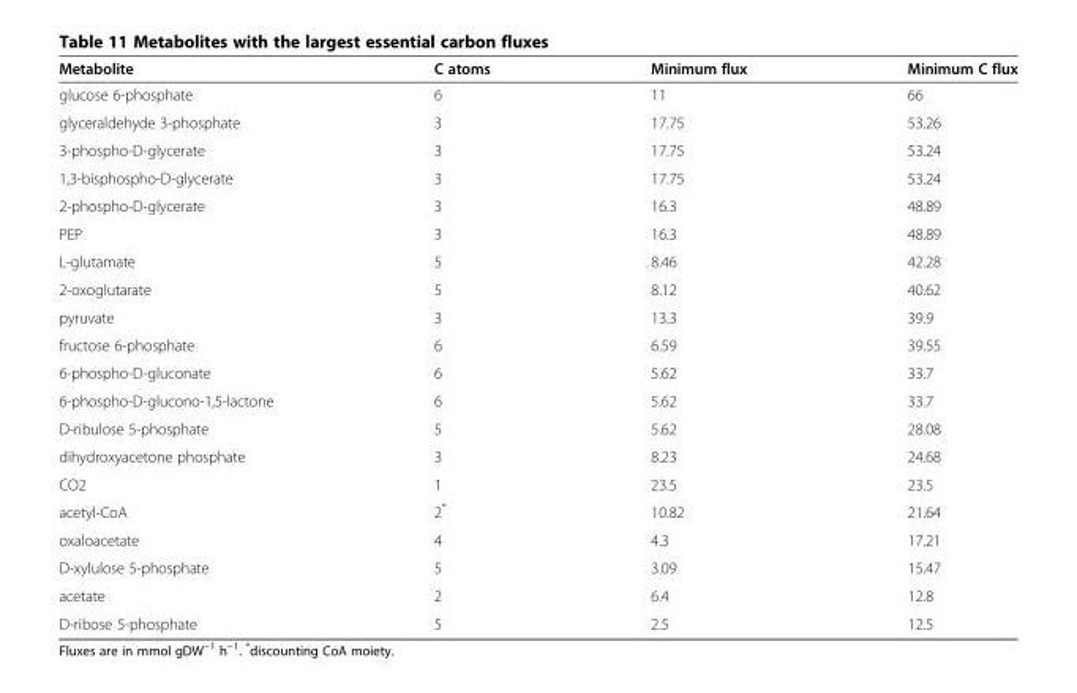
<table><thead><tr><td>Metabolite</td><td>C atoms</td><td>Minimum flux</td><td>Minimum C flux</td></tr></thead><tbody><tr><td>glucose 6-phosphate</td><td>6</td><td>11</td><td>66</td></tr><tr><td>glyceraldehyde 3-phosphate</td><td>3</td><td>17.75</td><td>53.26</td></tr><tr><td>3-phospho-D-glycerate</td><td>3</td><td>17.75</td><td>53.24</td></tr><tr><td>1,3-bisphospho-D-glycerate</td><td>3</td><td>17.75</td><td>53.24</td></tr><tr><td>2-phospho-D-glycerate</td><td>3</td><td>16.3</td><td>48.89</td></tr><tr><td>PEP</td><td>3</td><td>16.3</td><td>48.89</td></tr><tr><td>L-glutamate</td><td>5</td><td>8.46</td><td>42.28</td></tr><tr><td>2-oxoglutarate</td><td>5</td><td>8.12</td><td>40.62</td></tr><tr><td>pyruvate</td><td>3</td><td>13.3</td><td>39.9</td></tr><tr><td>fructose 6-phosphate</td><td>6</td><td>6.59</td><td>39.55</td></tr><tr><td>6-phospho-D-gluconate</td><td>6</td><td>5.62</td><td>33.7</td></tr><tr><td>6-phospho-D-glucono-1,5-lactone</td><td>6</td><td>5.62</td><td>33.7</td></tr><tr><td>D-ribulose 5-phosphate</td><td>5</td><td>5.62</td><td>28.08</td></tr><tr><td>dihydroxyacetone phosphate</td><td>3</td><td>8.23</td><td>24.68</td></tr><tr><td>CO2</td><td>1</td><td>23.5</td><td>23.5</td></tr><tr><td>acetyl-CoA</td><td>2*</td><td>10.82</td><td>21.64</td></tr><tr><td>oxaloacetate</td><td>4</td><td>4.3</td><td>17.21</td></tr><tr><td>D-xylulose 5-phosphate</td><td>5</td><td>3.09</td><td>15.47</td></tr><tr><td>acetate</td><td>2</td><td>6.4</td><td>12.8</td></tr><tr><td>D-ribose 5-phosphate</td><td>5</td><td>2.5</td><td>12.5</td></tr></tbody></table>